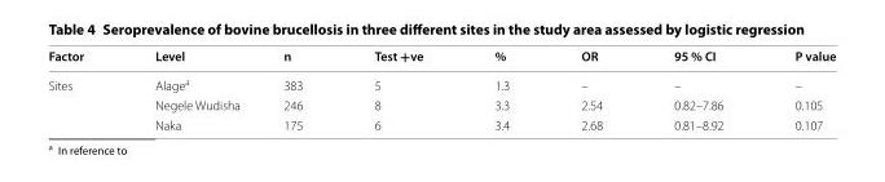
<table><thead><tr><td>Factor</td><td>Level</td><td>n</td><td>Test +ve</td><td>%</td><td>OR</td><td>95 % CI</td><td>P value</td></tr></thead><tbody><tr><td rowspan="3">Sites</td><td>Alage<sup>a</sup></td><td>383</td><td>5</td><td>1.3</td><td>–</td><td>–</td><td>–</td></tr><tr><td>Negele Wudisha</td><td>246</td><td>8</td><td>3.3</td><td>2.54</td><td>0.82–7.86</td><td>0.105</td></tr><tr><td>Naka</td><td>175</td><td>6</td><td>3.4</td><td>2.68</td><td>0.81–8.92</td><td>0.107</td></tr></tbody></table>